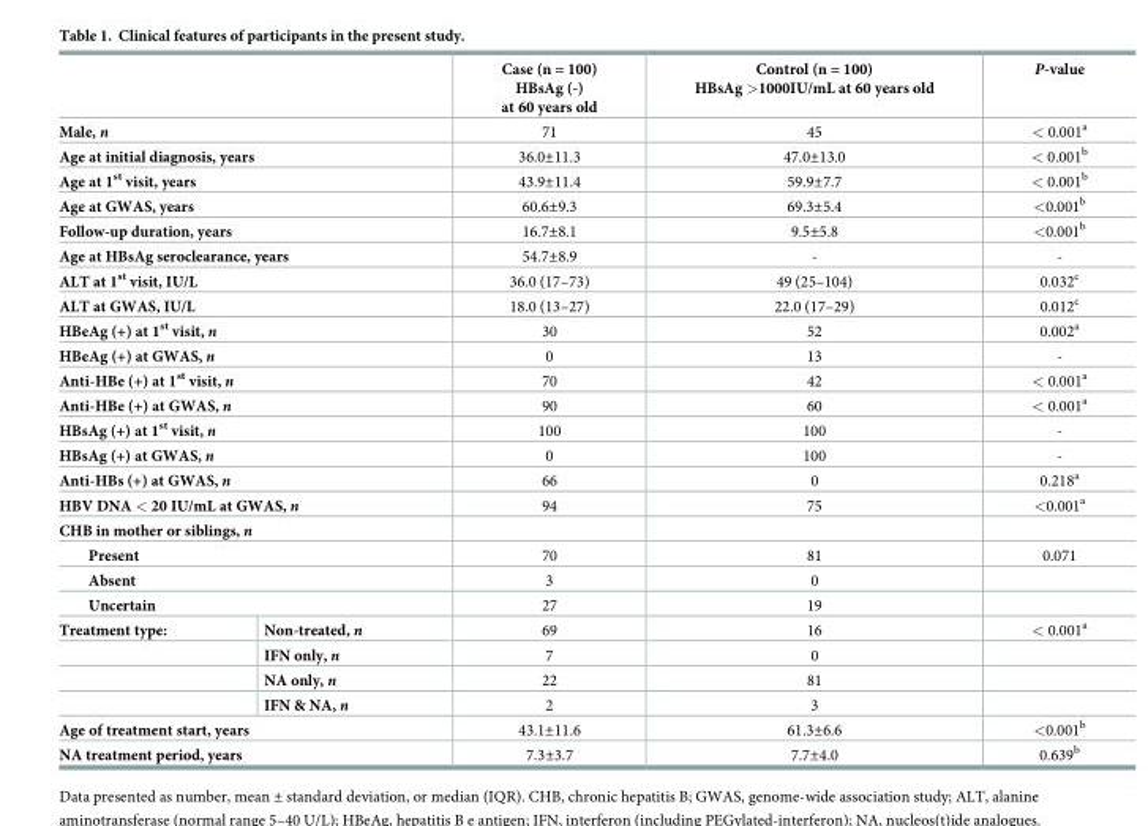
<table><thead><tr><td></td><td></td><td>Case (n = 100) HBsAg (-) at 60 years old</td><td>Control (n = 100) HBsAg &gt;1000IU/mL at 60 years old</td><td>P-value</td></tr></thead><tbody><tr><td colspan="2">Male, n</td><td>71</td><td>45</td><td>&lt; 0.001<sup>a</sup></td></tr><tr><td colspan="2">Age at initial diagnosis, years</td><td>36.0±11.3</td><td>47.0±13.0</td><td>&lt; 0.001<sup>b</sup></td></tr><tr><td colspan="2">Age at 1<sup>st</sup> visit, years</td><td>43.9±11.4</td><td>59.9±7.7</td><td>&lt; 0.001<sup>b</sup></td></tr><tr><td colspan="2">Age at GWAS, years</td><td>60.6±9.3</td><td>69.3±5.4</td><td>&lt;0.001<sup>b</sup></td></tr><tr><td colspan="2">Follow-up duration, years</td><td>16.7±8.1</td><td>9.5±5.8</td><td>&lt;0.001<sup>b</sup></td></tr><tr><td colspan="2">Age at HBsAg seroclearance, years</td><td>54.7±8.9</td><td>-</td><td>-</td></tr><tr><td colspan="2">ALT at 1<sup>st</sup> visit, IU/L</td><td>36.0 (17–73)</td><td>49 (25–104)</td><td>0.032<sup>c</sup></td></tr><tr><td colspan="2">ALT at GWAS, IU/L</td><td>18.0 (13–27)</td><td>22.0 (17–29)</td><td>0.012<sup>c</sup></td></tr><tr><td colspan="2">HBeAg (+) at 1<sup>st</sup> visit, n</td><td>30</td><td>52</td><td>0.002<sup>a</sup></td></tr><tr><td colspan="2">HBeAg (+) at GWAS, n</td><td>0</td><td>13</td><td>-</td></tr><tr><td colspan="2">Anti-HBe (+) at 1<sup>st</sup> visit, n</td><td>70</td><td>42</td><td>&lt; 0.001<sup>a</sup></td></tr><tr><td colspan="2">Anti-HBe (+) at GWAS, n</td><td>90</td><td>60</td><td>&lt; 0.001<sup>a</sup></td></tr><tr><td colspan="2">HBsAg (+) at 1<sup>st</sup> visit, n</td><td>100</td><td>100</td><td>-</td></tr><tr><td colspan="2">HBsAg (+) at GWAS, n</td><td>0</td><td>100</td><td>-</td></tr><tr><td colspan="2">Anti-HBs (+) at GWAS, n</td><td>66</td><td>0</td><td>0.218<sup>a</sup></td></tr><tr><td colspan="2">HBV DNA &lt; 20 IU/mL at GWAS, n</td><td>94</td><td>75</td><td>&lt;0.001<sup>a</sup></td></tr><tr><td colspan="5">CHB in mother or siblings, n</td></tr><tr><td colspan="2">Present</td><td>70</td><td>81</td><td>0.071</td></tr><tr><td colspan="2">Absent</td><td>3</td><td>0</td><td></td></tr><tr><td colspan="2">Uncertain</td><td>27</td><td>19</td><td></td></tr><tr><td rowspan="4">Treatment type:</td><td>Non-treated, n</td><td>69</td><td>16</td><td>&lt; 0.001<sup>a</sup></td></tr><tr><td>IFN only, n</td><td>7</td><td>0</td><td></td></tr><tr><td>NA only, n</td><td>22</td><td>81</td><td></td></tr><tr><td>IFN &amp; NA, n</td><td>2</td><td>3</td><td></td></tr><tr><td colspan="2">Age of treatment start, years</td><td>43.1±11.6</td><td>61.3±6.6</td><td>&lt;0.001<sup>b</sup></td></tr><tr><td colspan="2">NA treatment period, years</td><td>7.3±3.7</td><td>7.7±4.0</td><td>0.639<sup>b</sup></td></tr></tbody></table>